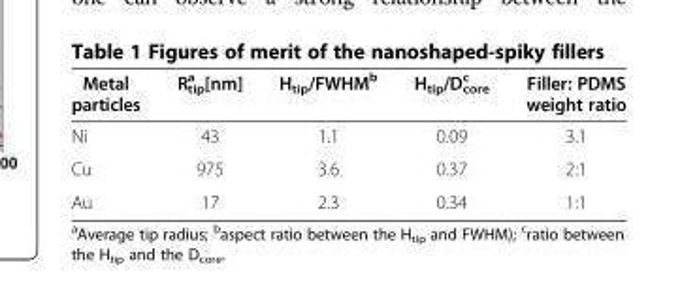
<table><thead><tr><td>Metal particles</td><td>R<sub>tip</sub> <sup>a</sup> [nm]</td><td>H<sub>tip</sub>/FWHM<sup>b</sup></td><td>H<sub>tip</sub>/D<sub>core</sub> <sup>c</sup></td><td>Filler: PDMS weight ratio</td></tr></thead><tbody><tr><td>Ni</td><td>43</td><td>1.1</td><td>0.09</td><td>3.1</td></tr><tr><td>Cu</td><td>975</td><td>3.6</td><td>0.37</td><td>2:1</td></tr><tr><td>Au</td><td>17</td><td>2.3</td><td>0.34</td><td>1:1</td></tr></tbody></table>